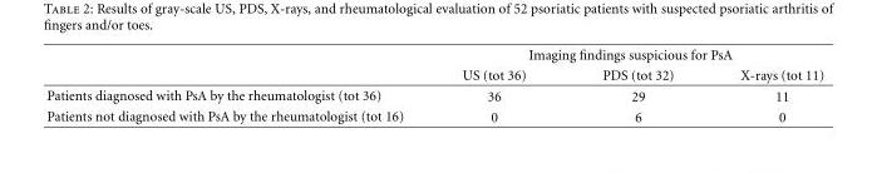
<table><thead><tr><td rowspan="2"></td><td colspan="3">Imaging findings suspicious for PsA</td></tr><tr><td>US (tot 36)</td><td>PDS (tot 32)</td><td>X-rays (tot 11)</td></tr></thead><tbody><tr><td>Patients diagnosed with PsA by the rheumatologist (tot 36)</td><td>36</td><td>29</td><td>11</td></tr><tr><td>Patients not diagnosed with PsA by the rheumatologist (tot 16)</td><td>0</td><td>6</td><td>0</td></tr></tbody></table>